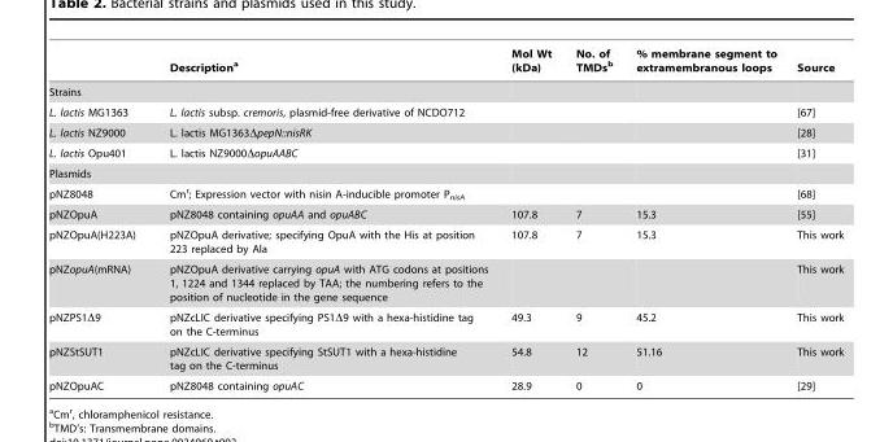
<table><thead><tr><td></td><td>Description<sup>a</sup></td><td>Mol Wt (kDa)</td><td>No. of TMDs<sup>b</sup></td><td>% membrane segment to extramembranous loops</td><td>Source</td></tr></thead><tbody><tr><td colspan="6">Strains</td></tr><tr><td>L. lactis MG1363</td><td>L. lactis subsp. cremoris, plasmid-free derivative of NCDO712</td><td></td><td></td><td></td><td>[67]</td></tr><tr><td>L. lactis NZ9000</td><td>L. lactis MG1363ΔpepN::nisRK</td><td></td><td></td><td></td><td>[28]</td></tr><tr><td>L. lactis Opu401</td><td>L. lactis NZ9000ΔopuAABC</td><td></td><td></td><td></td><td>[31]</td></tr><tr><td colspan="6">Plasmids</td></tr><tr><td>pNZ8048</td><td>Cm<sup>r</sup>; Expression vector with nisin A-inducible promoter P<sub>nisA</sub></td><td></td><td></td><td></td><td>[68]</td></tr><tr><td>pNZOpuA</td><td>pNZ8048 containing opuAA and opuABC</td><td>107.8</td><td>7</td><td>15.3</td><td>[55]</td></tr><tr><td>pNZOpuA(H223A)</td><td>pNZOpuA derivative; specifying OpuA with the His at position 223 replaced by Ala</td><td>107.8</td><td>7</td><td>15.3</td><td>This work</td></tr><tr><td>pNZopuA(mRNA)</td><td>pNZOpuA derivative carrying opuA with ATG codons at positions 1, 1224 and 1344 replaced by TAA; the numbering refers to the position of nucleotide in the gene sequence</td><td></td><td></td><td></td><td>This work</td></tr><tr><td>pNZPS1Δ9</td><td>pNZcLIC derivative specifying PS1Δ9 with a hexa-histidine tag on the C-terminus</td><td>49.3</td><td>9</td><td>45.2</td><td>This work</td></tr><tr><td>pNZStSUT1</td><td>pNZcLIC derivative specifying StSUT1 with a hexa-histidine tag on the C-terminus</td><td>54.8</td><td>12</td><td>51.16</td><td>This work</td></tr><tr><td>pNZOpuAC</td><td>pNZ8048 containing opuAC</td><td>28.9</td><td>0</td><td>0</td><td>[29]</td></tr></tbody></table>